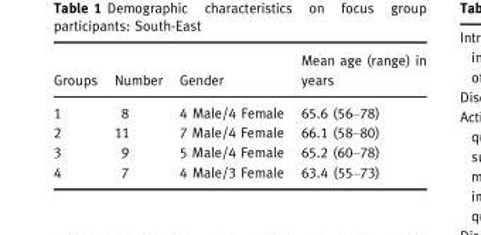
<table><thead><tr><td>Groups</td><td>Number</td><td>Gender</td><td>Mean age (range) in years</td></tr></thead><tbody><tr><td>1</td><td>8</td><td>4 Male/4 Female</td><td>65.6 (56–78)</td></tr><tr><td>2</td><td>11</td><td>7 Male/4 Female</td><td>66.1 (58–80)</td></tr><tr><td>3</td><td>9</td><td>5 Male/4 Female</td><td>65.2 (60–78)</td></tr><tr><td>4</td><td>7</td><td>4 Male/3 Female</td><td>63.4 (55–73)</td></tr></tbody></table>